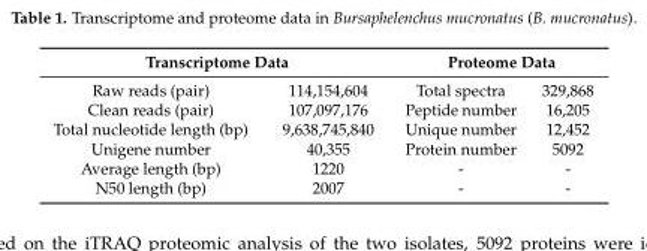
<table><thead><tr><td colspan="2">Transcriptome Data</td><td colspan="2">Proteome Data</td></tr><tr><td>Raw reads (pair)</td><td>114,154,604</td><td>Total spectra</td><td>329,868</td></tr></thead><tbody><tr><td>Clean reads (pair)</td><td>107,097,176</td><td>Peptide number</td><td>16,205</td></tr><tr><td>Total nucleotide length (bp)</td><td>9,638,745,840</td><td>Unique number</td><td>12,452</td></tr><tr><td>Unigene number</td><td>40,355</td><td>Protein number</td><td>5092</td></tr><tr><td>Average length (bp)</td><td>1220</td><td>-</td><td>-</td></tr><tr><td>N50 length (bp)</td><td>2007</td><td>-</td><td>-</td></tr></tbody></table>